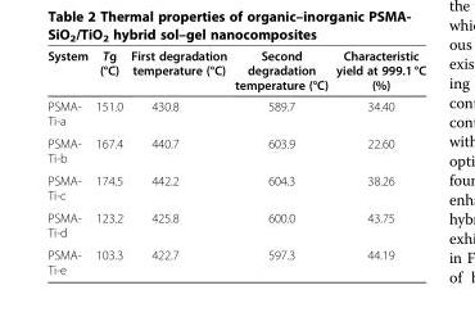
<table><thead><tr><td>System</td><td>Tg (°C)</td><td>First degradation temperature (°C)</td><td>Second degradation temperature (°C)</td><td>Characteristic yield at 999.1 °C (%)</td></tr></thead><tbody><tr><td>PSMA- Ti-a</td><td>151.0</td><td>430.8</td><td>589.7</td><td>34.40</td></tr><tr><td>PSMA- Ti-b</td><td>167.4</td><td>440.7</td><td>603.9</td><td>22.60</td></tr><tr><td>PSMA- Ti-c</td><td>174.5</td><td>442.2</td><td>604.3</td><td>38.26</td></tr><tr><td>PSMA- Ti-d</td><td>123.2</td><td>425.8</td><td>600.0</td><td>43.75</td></tr><tr><td>PSMA- Ti-e</td><td>103.3</td><td>422.7</td><td>597.3</td><td>44.19</td></tr></tbody></table>